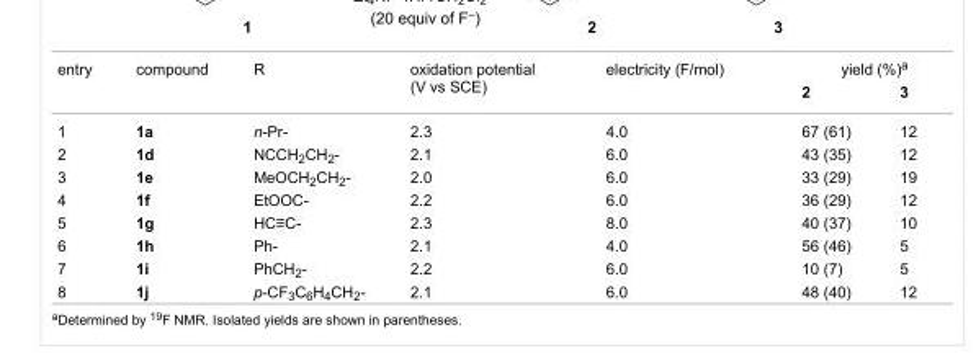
<table><tbody><tr><td rowspan="2">entry</td><td rowspan="2">compound</td><td rowspan="2">R</td><td rowspan="2">oxidation potential (V vs SCE)</td><td rowspan="2">electricity (F/mol)</td><td colspan="2">yield (%)<sup>a</sup></td></tr><tr><td>2</td><td>3</td></tr><tr><td>1</td><td>1a</td><td>n-Pr-</td><td>2.3</td><td>4.0</td><td>67 (61)</td><td>12</td></tr><tr><td>2</td><td>1d</td><td>NCCH<sub>2</sub>CH<sub>2</sub>-</td><td>2.1</td><td>6.0</td><td>43 (35)</td><td>12</td></tr><tr><td>3</td><td>1e</td><td>MeOCH<sub>2</sub>CH<sub>2</sub>-</td><td>2.0</td><td>6.0</td><td>33 (29)</td><td>19</td></tr><tr><td>4</td><td>1f</td><td>EtOOC-</td><td>2.2</td><td>6.0</td><td>36 (29)</td><td>12</td></tr><tr><td>5</td><td>1g</td><td>HC≡C-</td><td>2.3</td><td>8.0</td><td>40 (37)</td><td>10</td></tr><tr><td>6</td><td>1h</td><td>Ph-</td><td>2.1</td><td>4.0</td><td>56 (46)</td><td>5</td></tr><tr><td>7</td><td>1i</td><td>PhCH<sub>2</sub>-</td><td>2.2</td><td>6.0</td><td>10 (7)</td><td>5</td></tr><tr><td>8</td><td>1j</td><td>p-CF<sub>3</sub>C<sub>6</sub>H<sub>4</sub>CH<sub>2</sub>-</td><td>2.1</td><td>6.0</td><td>48 (40)</td><td>12</td></tr></tbody></table>